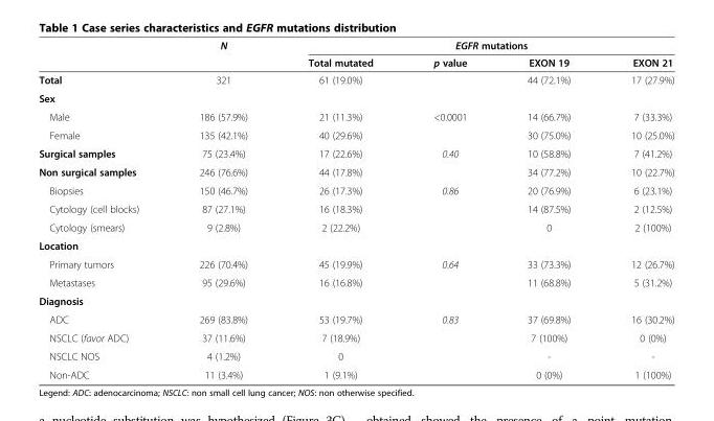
<table><thead><tr><td rowspan="2"></td><td rowspan="2">N</td><td colspan="4">EGFR mutations</td></tr><tr><td>Total mutated</td><td>p value</td><td>EXON 19</td><td>EXON 21</td></tr></thead><tbody><tr><td>Total</td><td>321</td><td>61 (19.0%)</td><td></td><td>44 (72.1%)</td><td>17 (27.9%)</td></tr><tr><td colspan="6">Sex</td></tr><tr><td>Male</td><td>186 (57.9%)</td><td>21 (11.3%)</td><td rowspan="2">&lt;0.0001</td><td>14 (66.7%)</td><td>7 (33.3%)</td></tr><tr><td>Female</td><td>135 (42.1%)</td><td>40 (29.6%)</td><td>30 (75.0%)</td><td>10 (25.0%)</td></tr><tr><td>Surgical samples</td><td>75 (23.4%)</td><td>17 (22.6%)</td><td rowspan="2">0.40</td><td>10 (58.8%)</td><td>7 (41.2%)</td></tr><tr><td>Non surgical samples</td><td>246 (76.6%)</td><td>44 (17.8%)</td><td>34 (77.2%)</td><td>10 (22.7%)</td></tr><tr><td>Biopsies</td><td>150 (46.7%)</td><td>26 (17.3%)</td><td rowspan="2">0.86</td><td>20 (76.9%)</td><td>6 (23.1%)</td></tr><tr><td>Cytology (cell blocks)</td><td>87 (27.1%)</td><td>16 (18.3%)</td><td>14 (87.5%)</td><td>2 (12.5%)</td></tr><tr><td>Cytology (smears)</td><td>9 (2.8%)</td><td>2 (22.2%)</td><td></td><td>0</td><td>2 (100%)</td></tr><tr><td colspan="6">Location</td></tr><tr><td>Primary tumors</td><td>226 (70.4%)</td><td>45 (19.9%)</td><td>0.64</td><td>33 (73.3%)</td><td>12 (26.7%)</td></tr><tr><td>Metastases</td><td>95 (29.6%)</td><td>16 (16.8%)</td><td></td><td>11 (68.8%)</td><td>5 (31.2%)</td></tr><tr><td colspan="6">Diagnosis</td></tr><tr><td>ADC</td><td>269 (83.8%)</td><td>53 (19.7%)</td><td>0.83</td><td>37 (69.8%)</td><td>16 (30.2%)</td></tr><tr><td>NSCLC (favor ADC)</td><td>37 (11.6%)</td><td>7 (18.9%)</td><td></td><td>7 (100%)</td><td>0 (0%)</td></tr><tr><td>NSCLC NOS</td><td>4 (1.2%)</td><td>0</td><td></td><td>-</td><td>-</td></tr><tr><td>Non-ADC</td><td>11 (3.4%)</td><td>1 (9.1%)</td><td></td><td>0 (0%)</td><td>1 (100%)</td></tr></tbody></table>